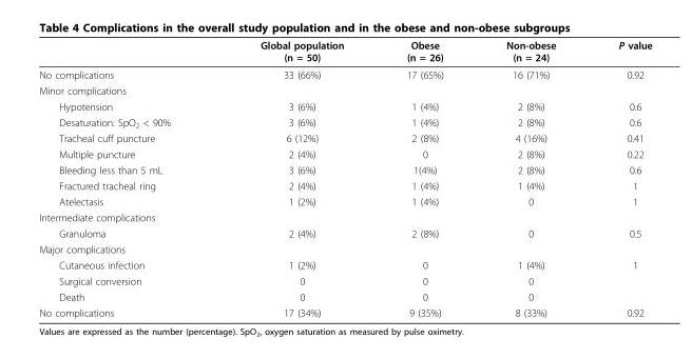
<table><thead><tr><td></td><td>Global population (n = 50)</td><td>Obese (n = 26)</td><td>Non-obese (n = 24)</td><td>P value</td></tr></thead><tbody><tr><td>No complications</td><td>33 (66%)</td><td>17 (65%)</td><td>16 (71%)</td><td>0.92</td></tr><tr><td colspan="5">Minor complications</td></tr><tr><td>Hypotension</td><td>3 (6%)</td><td>1 (4%)</td><td>2 (8%)</td><td>0.6</td></tr><tr><td>Desaturation: SpO<sub>2</sub> &lt; 90%</td><td>3 (6%)</td><td>1 (4%)</td><td>2 (8%)</td><td>0.6</td></tr><tr><td>Tracheal cuff puncture</td><td>6 (12%)</td><td>2 (8%)</td><td>4 (16%)</td><td>0.41</td></tr><tr><td>Multiple puncture</td><td>2 (4%)</td><td>0</td><td>2 (8%)</td><td>0.22</td></tr><tr><td>Bleeding less than 5 mL</td><td>3 (6%)</td><td>1(4%)</td><td>2 (8%)</td><td>0.6</td></tr><tr><td>Fractured tracheal ring</td><td>2 (4%)</td><td>1 (4%)</td><td>1 (4%)</td><td>1</td></tr><tr><td>Atelectasis</td><td>1 (2%)</td><td>1 (4%)</td><td>0</td><td>1</td></tr><tr><td colspan="5">Intermediate complications</td></tr><tr><td>Granuloma</td><td>2 (4%)</td><td>2 (8%)</td><td>0</td><td>0.5</td></tr><tr><td colspan="5">Major complications</td></tr><tr><td>Cutaneous infection</td><td>1 (2%)</td><td>0</td><td>1 (4%)</td><td>1</td></tr><tr><td>Surgical conversion</td><td>0</td><td>0</td><td>0</td><td></td></tr><tr><td>Death</td><td>0</td><td>0</td><td>0</td><td></td></tr><tr><td>No complications</td><td>17 (34%)</td><td>9 (35%)</td><td>8 (33%)</td><td>0.92</td></tr></tbody></table>